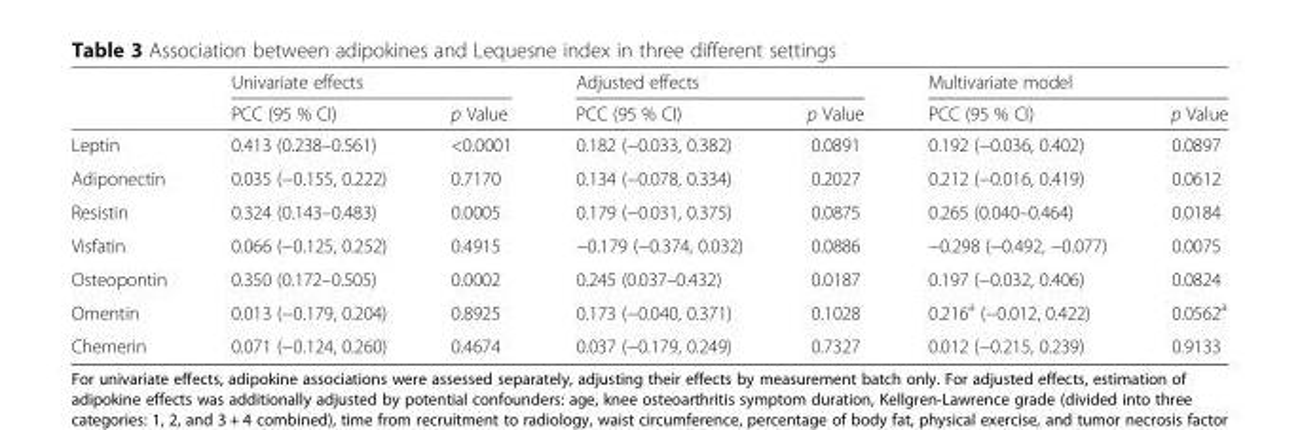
<table><thead><tr><td rowspan="2"></td><td colspan="2">Univariate effects</td><td colspan="2">Adjusted effects</td><td colspan="2">Multivariate model</td></tr><tr><td>PCC (95 % CI)</td><td>p Value</td><td>PCC (95 % CI)</td><td>p Value</td><td>PCC (95 % CI)</td><td>p Value</td></tr></thead><tbody><tr><td>Leptin</td><td>0.413 (0.238–0.561)</td><td>&lt;0.0001</td><td>0.182 (−0.033, 0.382)</td><td>0.0891</td><td>0.192 (−0.036, 0.402)</td><td>0.0897</td></tr><tr><td>Adiponectin</td><td>0.035 (−0.155, 0.222)</td><td>0.7170</td><td>0.134 (−0.078, 0.334)</td><td>0.2027</td><td>0.212 (−0.016, 0.419)</td><td>0.0612</td></tr><tr><td>Resistin</td><td>0.324 (0.143–0.483)</td><td>0.0005</td><td>0.179 (−0.031, 0.375)</td><td>0.0875</td><td>0.265 (0.040–0.464)</td><td>0.0184</td></tr><tr><td>Visfatin</td><td>0.066 (−0.125, 0.252)</td><td>0.4915</td><td>−0.179 (−0.374, 0.032)</td><td>0.0886</td><td>−0.298 (−0.492, −0.077)</td><td>0.0075</td></tr><tr><td>Osteopontin</td><td>0.350 (0.172–0.505)</td><td>0.0002</td><td>0.245 (0.037–0.432)</td><td>0.0187</td><td>0.197 (−0.032, 0.406)</td><td>0.0824</td></tr><tr><td>Omentin</td><td>0.013 (−0.179, 0.204)</td><td>0.8925</td><td>0.173 (−0.040, 0.371)</td><td>0.1028</td><td>0.216<sup>a</sup> (−0.012, 0.422)</td><td>0.0562<sup>a</sup></td></tr><tr><td>Chemerin</td><td>0.071 (−0.124, 0.260)</td><td>0.4674</td><td>0.037 (−0.179, 0.249)</td><td>0.7327</td><td>0.012 (−0.215, 0.239)</td><td>0.9133</td></tr></tbody></table>